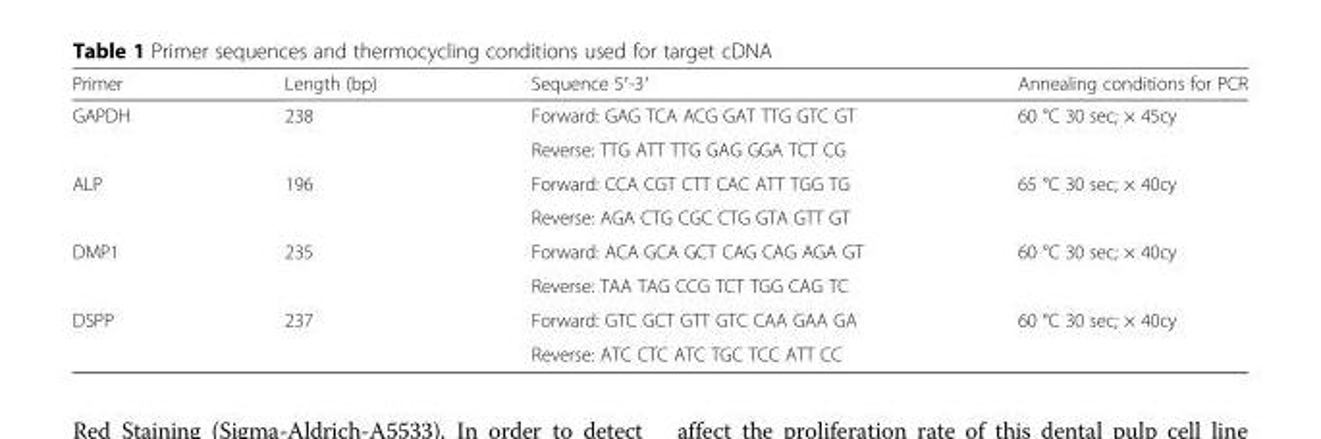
<table><thead><tr><td>Primer</td><td>Length (bp)</td><td>Sequence 5′-3′</td><td>Annealing conditions for PCR</td></tr></thead><tbody><tr><td rowspan="2">GAPDH</td><td rowspan="2">238</td><td>Forward: GAG TCA ACG GAT TTG GTC GT</td><td rowspan="2">60 °C 30 sec; × 45cy</td></tr><tr><td>Reverse: TTG ATT TTG GAG GGA TCT CG</td></tr><tr><td rowspan="2">ALP</td><td rowspan="2">196</td><td>Forward: CCA CGT CTT CAC ATT TGG TG</td><td rowspan="2">65 °C 30 sec; × 40cy</td></tr><tr><td>Reverse: AGA CTG CGC CTG GTA GTT GT</td></tr><tr><td rowspan="2">DMP1</td><td rowspan="2">235</td><td>Forward: ACA GCA GCT CAG CAG AGA GT</td><td rowspan="2">60 °C 30 sec; × 40cy</td></tr><tr><td>Reverse: TAA TAG CCG TCT TGG CAG TC</td></tr><tr><td rowspan="2">DSPP</td><td rowspan="2">237</td><td>Forward: GTC GCT GTT GTC CAA GAA GA</td><td rowspan="2">60 °C 30 sec; × 40cy</td></tr><tr><td>Reverse: ATC CTC ATC TGC TCC ATT CC</td></tr></tbody></table>